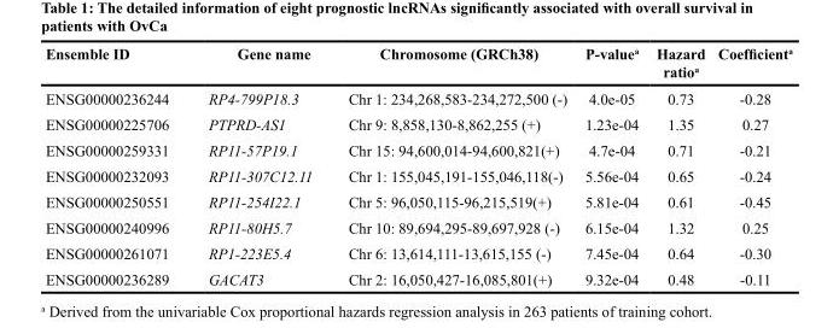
<table><thead><tr><td>Ensemble ID</td><td>Gene name</td><td>Chromosome (GRCh38)</td><td>P-value<sup>a</sup></td><td>Hazard ratio<sup>a</sup></td><td>Coefficient<sup>a</sup></td></tr></thead><tbody><tr><td>ENSG00000236244</td><td>RP4-799P18.3</td><td>Chr 1: 234,268,583-234,272,500 (-)</td><td>4.0e-05</td><td>0.73</td><td>-0.28</td></tr><tr><td>ENSG00000225706</td><td>PTPRD-AS1</td><td>Chr 9: 8,858,130-8,862,255 (+)</td><td>1.23e-04</td><td>1.35</td><td>0.27</td></tr><tr><td>ENSG00000259331</td><td>RP11-57P19.1</td><td>Chr 15: 94,600,014-94,600,821(+)</td><td>4.7e-04</td><td>0.71</td><td>-0.21</td></tr><tr><td>ENSG00000232093</td><td>RP11-307C12.11</td><td>Chr 1: 155,045,191-155,046,118(-)</td><td>5.56e-04</td><td>0.65</td><td>-0.24</td></tr><tr><td>ENSG00000250551</td><td>RP11-254I22.1</td><td>Chr 5: 96,050,115-96,215,519(+)</td><td>5.81e-04</td><td>0.61</td><td>-0.45</td></tr><tr><td>ENSG00000240996</td><td>RP11-80H5.7</td><td>Chr 10: 89,694,295-89,697,928 (-)</td><td>6.15e-04</td><td>1.32</td><td>0.25</td></tr><tr><td>ENSG00000261071</td><td>RP1-223E5.4</td><td>Chr 6: 13,614,111-13,615,155 (-)</td><td>7.45e-04</td><td>0.64</td><td>-0.30</td></tr><tr><td>ENSG00000236289</td><td>GACAT3</td><td>Chr 2: 16,050,427-16,085,801(+)</td><td>9.32e-04</td><td>0.48</td><td>-0.11</td></tr></tbody></table>